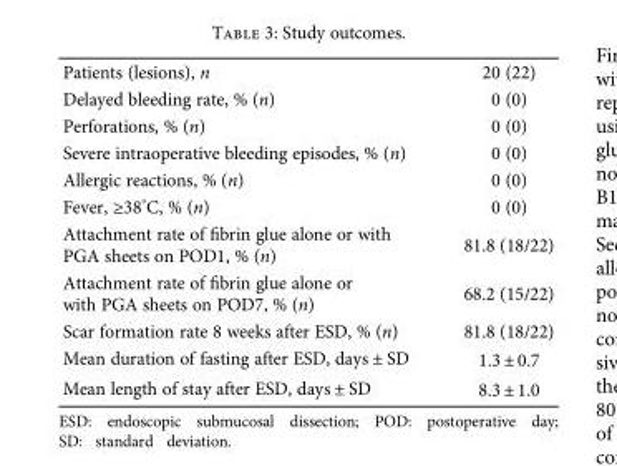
<table><tbody><tr><td>Patients (lesions), n</td><td>20 (22)</td></tr><tr><td>Delayed bleeding rate, % (n)</td><td>0 (0)</td></tr><tr><td>Perforations, % (n)</td><td>0 (0)</td></tr><tr><td>Severe intraoperative bleeding episodes, % (n)</td><td>0 (0)</td></tr><tr><td>Allergic reactions, % (n)</td><td>0 (0)</td></tr><tr><td>Fever, ≥38°C, % (n)</td><td>0 (0)</td></tr><tr><td>Attachment rate of fibrin glue alone or with PGA sheets on POD1, % (n)</td><td>81.8 (18/22)</td></tr><tr><td>Attachment rate of fibrin glue alone or with PGA sheets on POD7, % (n)</td><td>68.2 (15/22)</td></tr><tr><td>Scar formation rate 8 weeks after ESD, % (n)</td><td>81.8 (18/22)</td></tr><tr><td>Mean duration of fasting after ESD, days ± SD</td><td>1.3 ± 0.7</td></tr><tr><td>Mean length of stay after ESD, days ± SD</td><td>8.3 ± 1.0</td></tr></tbody></table>